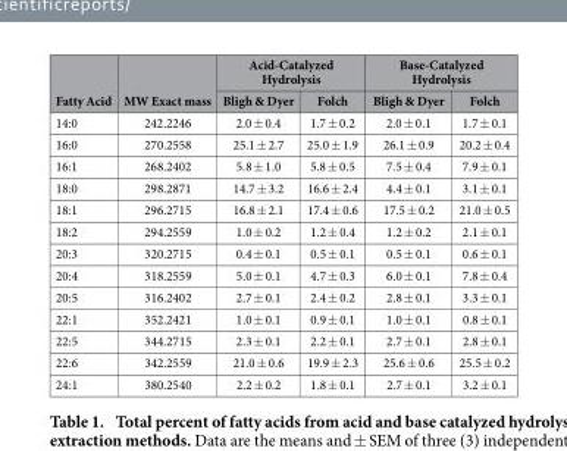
<table><thead><tr><td rowspan="2">Fatty Acid</td><td rowspan="2">MW Exact mass</td><td colspan="2">Acid-Catalyzed Hydrolysis</td><td colspan="2">Base-Catalyzed Hydrolysis</td></tr><tr><td>Bligh &amp; Dyer</td><td>Folch</td><td>Bligh &amp; Dyer</td><td>Folch</td></tr></thead><tbody><tr><td>14:0</td><td>242.2246</td><td>2.0 ± 0.4</td><td>1.7 ± 0.2</td><td>2.0 ± 0.1</td><td>1.7 ± 0.1</td></tr><tr><td>16:0</td><td>270.2558</td><td>25.1 ± 2.7</td><td>25.0 ± 1.9</td><td>26.1 ± 0.9</td><td>20.2 ± 0.4</td></tr><tr><td>16:1</td><td>268.2402</td><td>5.8 ± 1.0</td><td>5.8 ± 0.5</td><td>7.5 ± 0.4</td><td>7.9 ± 0.1</td></tr><tr><td>18:0</td><td>298.2871</td><td>14.7 ± 3.2</td><td>16.6 ± 2.4</td><td>4.4 ± 0.1</td><td>3.1 ± 0.1</td></tr><tr><td>18:1</td><td>296.2715</td><td>16.8 ± 2.1</td><td>17.4 ± 0.6</td><td>17.5 ± 0.2</td><td>21.0 ± 0.5</td></tr><tr><td>18:2</td><td>294.2559</td><td>1.0 ± 0.2</td><td>1.2 ± 0.4</td><td>1.2 ± 0.2</td><td>2.1 ± 0.1</td></tr><tr><td>20:3</td><td>320.2715</td><td>0.4 ± 0.1</td><td>0.5 ± 0.1</td><td>0.5 ± 0.1</td><td>0.6 ± 0.1</td></tr><tr><td>20:4</td><td>318.2559</td><td>5.0 ± 0.1</td><td>4.7 ± 0.3</td><td>6.0 ± 0.1</td><td>7.8 ± 0.4</td></tr><tr><td>20:5</td><td>316.2402</td><td>2.7 ± 0.1</td><td>2.4 ± 0.2</td><td>2.8 ± 0.1</td><td>3.3 ± 0.1</td></tr><tr><td>22:1</td><td>352.2421</td><td>1.0 ± 0.1</td><td>0.9 ± 0.1</td><td>1.0 ± 0.1</td><td>0.8 ± 0.1</td></tr><tr><td>22:5</td><td>344.2715</td><td>2.3 ± 0.1</td><td>2.2 ± 0.1</td><td>2.7 ± 0.1</td><td>2.8 ± 0.1</td></tr><tr><td>22:6</td><td>342.2559</td><td>21.0 ± 0.6</td><td>19.9 ± 2.3</td><td>25.6 ± 0.6</td><td>25.5 ± 0.2</td></tr><tr><td>24:1</td><td>380.2540</td><td>2.2 ± 0.2</td><td>1.8 ± 0.1</td><td>2.7 ± 0.1</td><td>3.2 ± 0.1</td></tr></tbody></table>